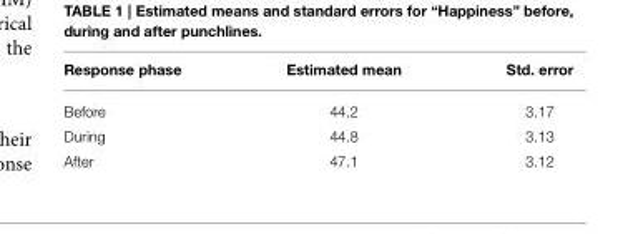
<table><thead><tr><td>Response phase</td><td>Estimated mean</td><td>Std. error</td></tr></thead><tbody><tr><td>Before</td><td>44.2</td><td>3.17</td></tr><tr><td>During</td><td>44.8</td><td>3.13</td></tr><tr><td>After</td><td>47.1</td><td>3.12</td></tr></tbody></table>